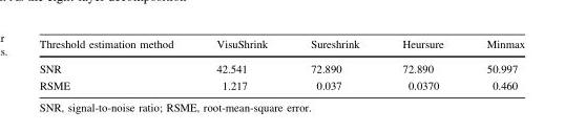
<table><thead><tr><td>Threshold estimation method</td><td>VisuShrink</td><td>Sureshrink</td><td>Heursure</td><td>Minmax</td></tr></thead><tbody><tr><td>SNR</td><td>42.541</td><td>72.890</td><td>72.890</td><td>50.997</td></tr><tr><td>RSME</td><td>1.217</td><td>0.037</td><td>0.0370</td><td>0.460</td></tr></tbody></table>